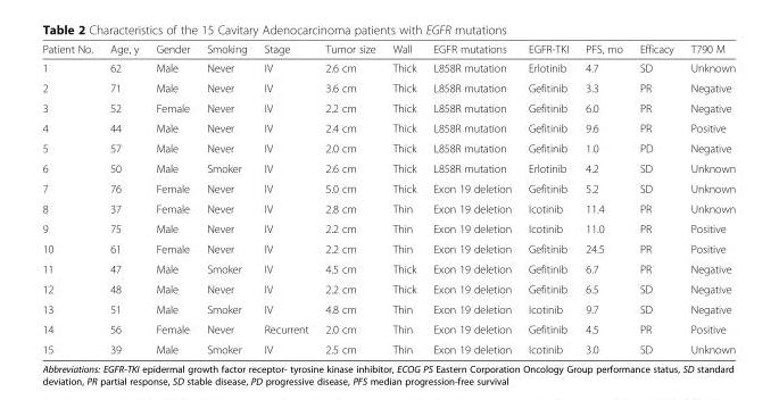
<table><thead><tr><td>Patient No.</td><td>Age, y</td><td>Gender</td><td>Smoking</td><td>Stage</td><td>Tumor size</td><td>Wall</td><td>EGFR mutations</td><td>EGFR-TKI</td><td>PFS, mo</td><td>Efficacy</td><td>T790 M</td></tr></thead><tbody><tr><td>1</td><td>62</td><td>Male</td><td>Never</td><td>IV</td><td>2.6 cm</td><td>Thick</td><td>L858R mutation</td><td>Erlotinib</td><td>4.7</td><td>SD</td><td>Unknown</td></tr><tr><td>2</td><td>71</td><td>Male</td><td>Never</td><td>IV</td><td>3.6 cm</td><td>Thick</td><td>L858R mutation</td><td>Gefitinib</td><td>3.3</td><td>PR</td><td>Negative</td></tr><tr><td>3</td><td>52</td><td>Female</td><td>Never</td><td>IV</td><td>2.2 cm</td><td>Thick</td><td>L858R mutation</td><td>Gefitinib</td><td>6.0</td><td>PR</td><td>Negative</td></tr><tr><td>4</td><td>44</td><td>Male</td><td>Never</td><td>IV</td><td>2.4 cm</td><td>Thick</td><td>L858R mutation</td><td>Gefitinib</td><td>9.6</td><td>PR</td><td>Positive</td></tr><tr><td>5</td><td>57</td><td>Male</td><td>Never</td><td>IV</td><td>2.0 cm</td><td>Thick</td><td>L858R mutation</td><td>Gefitinib</td><td>1.0</td><td>PD</td><td>Negative</td></tr><tr><td>6</td><td>50</td><td>Male</td><td>Smoker</td><td>IV</td><td>2.6 cm</td><td>Thick</td><td>L858R mutation</td><td>Erlotinib</td><td>4.2</td><td>SD</td><td>Unknown</td></tr><tr><td>7</td><td>76</td><td>Female</td><td>Never</td><td>IV</td><td>5.0 cm</td><td>Thick</td><td>Exon 19 deletion</td><td>Gefitinib</td><td>5.2</td><td>SD</td><td>Unknown</td></tr><tr><td>8</td><td>37</td><td>Female</td><td>Never</td><td>IV</td><td>2.8 cm</td><td>Thin</td><td>Exon 19 deletion</td><td>Icotinib</td><td>11.4</td><td>PR</td><td>Unknown</td></tr><tr><td>9</td><td>75</td><td>Male</td><td>Never</td><td>IV</td><td>2.2 cm</td><td>Thin</td><td>Exon 19 deletion</td><td>Icotinib</td><td>11.0</td><td>PR</td><td>Positive</td></tr><tr><td>10</td><td>61</td><td>Female</td><td>Never</td><td>IV</td><td>2.2 cm</td><td>Thin</td><td>Exon 19 deletion</td><td>Gefitinib</td><td>24.5</td><td>PR</td><td>Positive</td></tr><tr><td>11</td><td>47</td><td>Male</td><td>Smoker</td><td>IV</td><td>4.5 cm</td><td>Thick</td><td>Exon 19 deletion</td><td>Gefitinib</td><td>6.7</td><td>PR</td><td>Negative</td></tr><tr><td>12</td><td>48</td><td>Male</td><td>Never</td><td>IV</td><td>2.2 cm</td><td>Thick</td><td>Exon 19 deletion</td><td>Gefitinib</td><td>6.5</td><td>SD</td><td>Negative</td></tr><tr><td>13</td><td>51</td><td>Male</td><td>Smoker</td><td>IV</td><td>4.8 cm</td><td>Thin</td><td>Exon 19 deletion</td><td>Icotinib</td><td>9.7</td><td>SD</td><td>Negative</td></tr><tr><td>14</td><td>56</td><td>Female</td><td>Never</td><td>Recurrent</td><td>2.0 cm</td><td>Thin</td><td>Exon 19 deletion</td><td>Gefitinib</td><td>4.5</td><td>PR</td><td>Positive</td></tr><tr><td>15</td><td>39</td><td>Male</td><td>Smoker</td><td>IV</td><td>2.5 cm</td><td>Thin</td><td>Exon 19 deletion</td><td>Icotinib</td><td>3.0</td><td>SD</td><td>Unknown</td></tr></tbody></table>